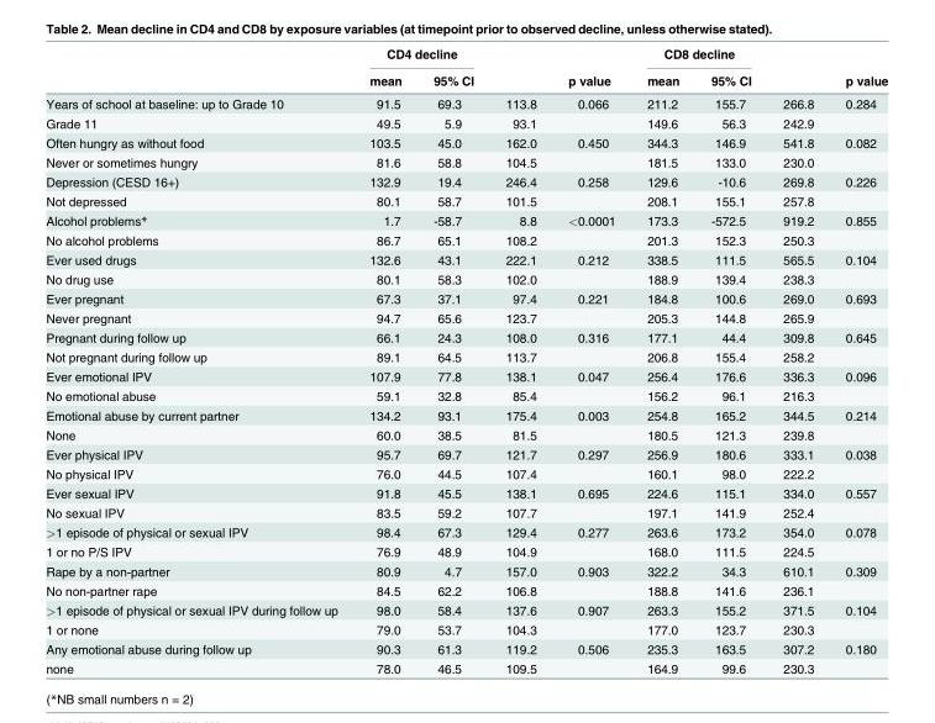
<table><thead><tr><td rowspan="2"></td><td colspan="2">CD4 decline</td><td rowspan="2"></td><td rowspan="2">p value</td><td colspan="2">CD8 decline</td><td rowspan="2"></td><td rowspan="2">p value</td></tr><tr><td>mean</td><td>95% CI</td><td>mean</td><td>95% CI</td></tr></thead><tbody><tr><td>Years of school at baseline: up to Grade 10</td><td>91.5</td><td>69.3</td><td>113.8</td><td>0.066</td><td>211.2</td><td>155.7</td><td>266.8</td><td>0.284</td></tr><tr><td>Grade 11</td><td>49.5</td><td>5.9</td><td>93.1</td><td></td><td>149.6</td><td>56.3</td><td>242.9</td><td></td></tr><tr><td>Often hungry as without food</td><td>103.5</td><td>45.0</td><td>162.0</td><td>0.450</td><td>344.3</td><td>146.9</td><td>541.8</td><td>0.082</td></tr><tr><td>Never or sometimes hungry</td><td>81.6</td><td>58.8</td><td>104.5</td><td></td><td>181.5</td><td>133.0</td><td>230.0</td><td></td></tr><tr><td>Depression (CESD 16+)</td><td>132.9</td><td>19.4</td><td>246.4</td><td>0.258</td><td>129.6</td><td>-10.6</td><td>269.8</td><td>0.226</td></tr><tr><td>Not depressed</td><td>80.1</td><td>58.7</td><td>101.5</td><td></td><td>208.1</td><td>155.1</td><td>257.8</td><td></td></tr><tr><td>Alcohol problems*</td><td>1.7</td><td>-58.7</td><td>8.8</td><td>&lt;0.0001</td><td>173.3</td><td>-572.5</td><td>919.2</td><td>0.855</td></tr><tr><td>No alcohol problems</td><td>86.7</td><td>65.1</td><td>108.2</td><td></td><td>201.3</td><td>152.3</td><td>250.3</td><td></td></tr><tr><td>Ever used drugs</td><td>132.6</td><td>43.1</td><td>222.1</td><td>0.212</td><td>338.5</td><td>111.5</td><td>565.5</td><td>0.104</td></tr><tr><td>No drug use</td><td>80.1</td><td>58.3</td><td>102.0</td><td></td><td>188.9</td><td>139.4</td><td>238.3</td><td></td></tr><tr><td>Ever pregnant</td><td>67.3</td><td>37.1</td><td>97.4</td><td>0.221</td><td>184.8</td><td>100.6</td><td>269.0</td><td>0.693</td></tr><tr><td>Never pregnant</td><td>94.7</td><td>65.6</td><td>123.7</td><td></td><td>205.3</td><td>144.8</td><td>265.9</td><td></td></tr><tr><td>Pregnant during follow up</td><td>66.1</td><td>24.3</td><td>108.0</td><td>0.316</td><td>177.1</td><td>44.4</td><td>309.8</td><td>0.645</td></tr><tr><td>Not pregnant during follow up</td><td>89.1</td><td>64.5</td><td>113.7</td><td></td><td>206.8</td><td>155.4</td><td>258.2</td><td></td></tr><tr><td>Ever emotional IPV</td><td>107.9</td><td>77.8</td><td>138.1</td><td>0.047</td><td>256.4</td><td>176.6</td><td>336.3</td><td>0.096</td></tr><tr><td>No emotional abuse</td><td>59.1</td><td>32.8</td><td>85.4</td><td></td><td>156.2</td><td>96.1</td><td>216.3</td><td></td></tr><tr><td>Emotional abuse by current partner</td><td>134.2</td><td>93.1</td><td>175.4</td><td>0.003</td><td>254.8</td><td>165.2</td><td>344.5</td><td>0.214</td></tr><tr><td>None</td><td>60.0</td><td>38.5</td><td>81.5</td><td></td><td>180.5</td><td>121.3</td><td>239.8</td><td></td></tr><tr><td>Ever physical IPV</td><td>95.7</td><td>69.7</td><td>121.7</td><td>0.297</td><td>256.9</td><td>180.6</td><td>333.1</td><td>0.038</td></tr><tr><td>No physical IPV</td><td>76.0</td><td>44.5</td><td>107.4</td><td></td><td>160.1</td><td>98.0</td><td>222.2</td><td></td></tr><tr><td>Ever sexual IPV</td><td>91.8</td><td>45.5</td><td>138.1</td><td>0.695</td><td>224.6</td><td>115.1</td><td>334.0</td><td>0.557</td></tr><tr><td>No sexual IPV</td><td>83.5</td><td>59.2</td><td>107.7</td><td></td><td>197.1</td><td>141.9</td><td>252.4</td><td></td></tr><tr><td>&gt;1 episode of physical or sexual IPV</td><td>98.4</td><td>67.3</td><td>129.4</td><td>0.277</td><td>263.6</td><td>173.2</td><td>354.0</td><td>0.078</td></tr><tr><td>1 or no P/S IPV</td><td>76.9</td><td>48.9</td><td>104.9</td><td></td><td>168.0</td><td>111.5</td><td>224.5</td><td></td></tr><tr><td>Rape by a non-partner</td><td>80.9</td><td>4.7</td><td>157.0</td><td>0.903</td><td>322.2</td><td>34.3</td><td>610.1</td><td>0.309</td></tr><tr><td>No non-partner rape</td><td>84.5</td><td>62.2</td><td>106.8</td><td></td><td>188.8</td><td>141.6</td><td>236.1</td><td></td></tr><tr><td>&gt;1 episode of physical or sexual IPV during follow up</td><td>98.0</td><td>58.4</td><td>137.6</td><td>0.907</td><td>263.3</td><td>155.2</td><td>371.5</td><td>0.104</td></tr><tr><td>1 or none</td><td>79.0</td><td>53.7</td><td>104.3</td><td></td><td>177.0</td><td>123.7</td><td>230.3</td><td></td></tr><tr><td>Any emotional abuse during follow up</td><td>90.3</td><td>61.3</td><td>119.2</td><td>0.506</td><td>235.3</td><td>163.5</td><td>307.2</td><td>0.180</td></tr><tr><td>none</td><td>78.0</td><td>46.5</td><td>109.5</td><td></td><td>164.9</td><td>99.6</td><td>230.3</td><td></td></tr></tbody></table>